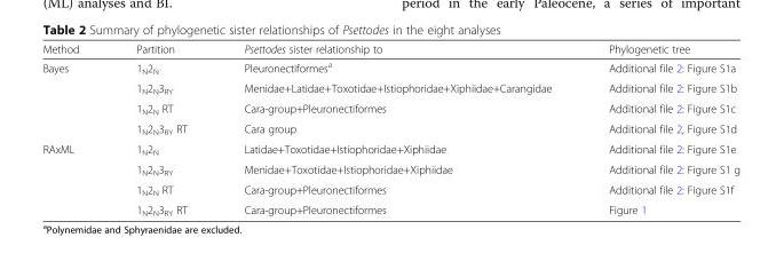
<table><thead><tr><td>Method</td><td>Partition</td><td>Psettodes sister relationship to</td><td>Phylogenetic tree</td></tr></thead><tbody><tr><td rowspan="4">Bayes</td><td>1<sub>N</sub>2<sub>N</sub></td><td>Pleuronectiformes<sup>a</sup></td><td>Additional file 2: Figure S1a</td></tr><tr><td>1<sub>N</sub>2<sub>N</sub>3<sub>RY</sub></td><td>Menidae+Latidae+Toxotidae+Istiophoridae+Xiphiidae+Carangidae</td><td>Additional file 2: Figure S1b</td></tr><tr><td>1<sub>N</sub>2<sub>N</sub> RT</td><td>Cara-group+Pleuronectiformes</td><td>Additional file 2: Figure S1c</td></tr><tr><td>1<sub>N</sub>2<sub>N</sub>3<sub>RY</sub> RT</td><td>Cara group</td><td>Additional file 2, Figure S1d</td></tr><tr><td rowspan="4">RAxML</td><td>1<sub>N</sub>2<sub>N</sub></td><td>Latidae+Toxotidae+Istiophoridae+Xiphiidae</td><td>Additional file 2: Figure S1e</td></tr><tr><td>1<sub>N</sub>2<sub>N</sub>3<sub>RY</sub></td><td>Menidae+Toxotidae+Istiophoridae+Xiphiidae</td><td>Additional file 2: Figure S1 g</td></tr><tr><td>1<sub>N</sub>2<sub>N</sub> RT</td><td>Cara-group+Pleuronectiformes</td><td>Additional file 2: Figure S1f</td></tr><tr><td>1<sub>N</sub>2<sub>N</sub>3<sub>RY</sub> RT</td><td>Cara-group+Pleuronectiformes</td><td>Figure 1</td></tr></tbody></table>